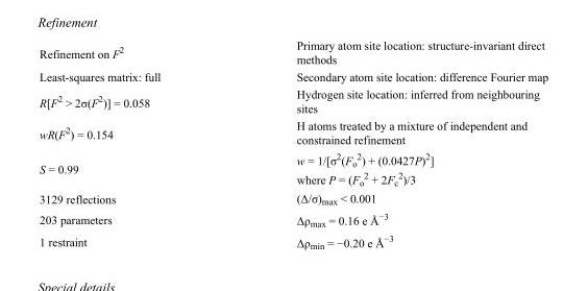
<table><tbody><tr><td>Refinement on F<sup>2</sup></td><td>Primary atom site location: structure-invariant direct methods</td></tr><tr><td>Least-squares matrix: full</td><td>Secondary atom site location: difference Fourier map</td></tr><tr><td>R[F<sup>2</sup> &gt; 2σ(F<sup>2</sup>)] = 0.058</td><td>Hydrogen site location: inferred from neighbouring sites</td></tr><tr><td>wR(F<sup>2</sup>) = 0.154</td><td>H atoms treated by a mixture of independent and constrained refinement</td></tr><tr><td>S = 0.99</td><td>w = 1/[σ<sup>2</sup>(F<sub>o</sub> <sup>2</sup>) + (0.0427P)<sup>2</sup>] where P = (F<sub>o</sub> <sup>2</sup> + 2F<sub>c</sub> <sup>2</sup>)/3</td></tr><tr><td>3129 reflections</td><td>(Δ/σ)<sub>max</sub> &lt; 0.001</td></tr><tr><td>203 parameters</td><td>Δρ<sub>max</sub> = 0.16 e Å<sup>−3</sup></td></tr><tr><td>1 restraint</td><td>Δρ<sub>min</sub> = −0.20 e Å<sup>−3</sup></td></tr></tbody></table>